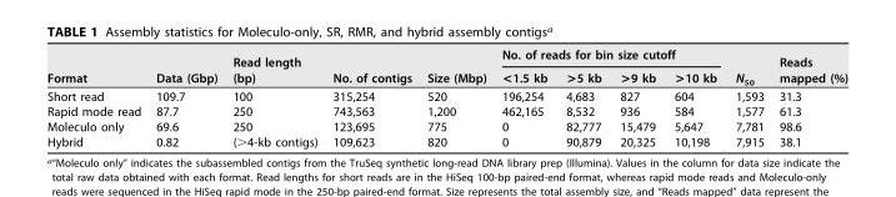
<table><thead><tr><td rowspan="2">Format</td><td rowspan="2">Data (Gbp)</td><td rowspan="2">Read length (bp)</td><td rowspan="2">No. of contigs</td><td rowspan="2">Size (Mbp)</td><td colspan="4">No. of reads for bin size cutoff</td><td rowspan="2">N<sub>50</sub></td><td rowspan="2">Reads mapped (%)</td></tr><tr><td>&lt;1.5 kb</td><td>&gt;5 kb</td><td>&gt;9 kb</td><td>&gt;10 kb</td></tr></thead><tbody><tr><td>Short read</td><td>109.7</td><td>100</td><td>315,254</td><td>520</td><td>196,254</td><td>4,683</td><td>827</td><td>604</td><td>1,593</td><td>31.3</td></tr><tr><td>Rapid mode read</td><td>87.7</td><td>250</td><td>743,563</td><td>1,200</td><td>462,165</td><td>8,532</td><td>936</td><td>584</td><td>1,577</td><td>61.3</td></tr><tr><td>Moleculo only</td><td>69.6</td><td>250</td><td>123,695</td><td>775</td><td>0</td><td>82,777</td><td>15,479</td><td>5,647</td><td>7,781</td><td>98.6</td></tr><tr><td>Hybrid</td><td>0.82</td><td>(&gt;4-kb contigs)</td><td>109,623</td><td>820</td><td>0</td><td>90,879</td><td>20,325</td><td>10,198</td><td>7,915</td><td>38.1</td></tr></tbody></table>